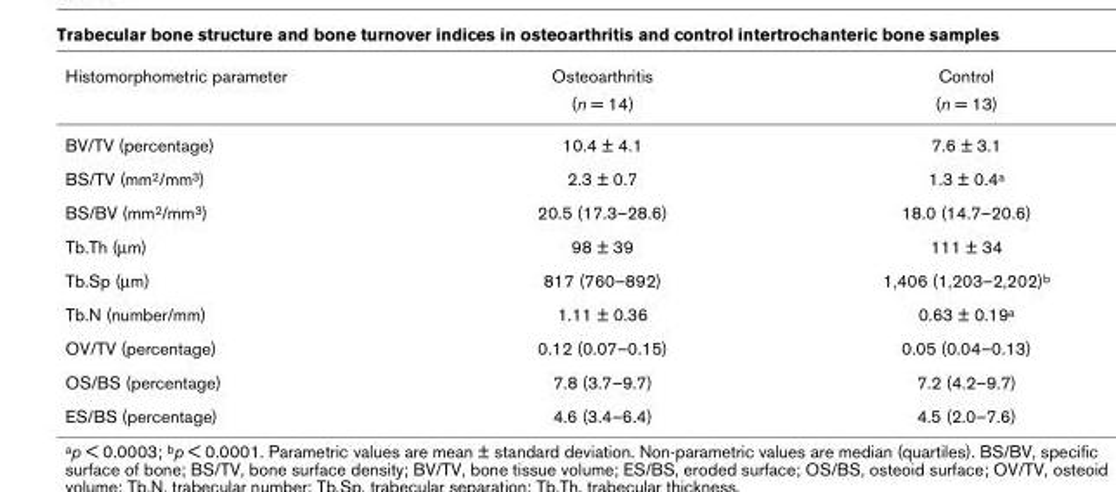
<table><thead><tr><td rowspan="2">Histomorphometric parameter</td><td rowspan="2">Osteoarthritis (n = 14)</td><td rowspan="2">Control (n = 13)</td></tr><tr></tr></thead><tbody><tr><td>BV/TV (percentage)</td><td>10.4 ± 4.1</td><td>7.6 ± 3.1</td></tr><tr><td>BS/TV (mm2/mm3)</td><td>2.3 ± 0.7</td><td>1.3 ± 0.4a</td></tr><tr><td>BS/BV (mm2/mm3)</td><td>20.5 (17.3–28.6)</td><td>18.0 (14.7–20.6)</td></tr><tr><td>Tb.Th (μm)</td><td>98 ± 39</td><td>111 ± 34</td></tr><tr><td>Tb.Sp (μm)</td><td>817 (760–892)</td><td>1,406 (1,203–2,202)b</td></tr><tr><td>Tb.N (number/mm)</td><td>1.11 ± 0.36</td><td>0.63 ± 0.19a</td></tr><tr><td>OV/TV (percentage)</td><td>0.12 (0.07–0.15)</td><td>0.05 (0.04–0.13)</td></tr><tr><td>OS/BS (percentage)</td><td>7.8 (3.7–9.7)</td><td>7.2 (4.2–9.7)</td></tr><tr><td>ES/BS (percentage)</td><td>4.6 (3.4–6.4)</td><td>4.5 (2.0–7.6)</td></tr></tbody></table>